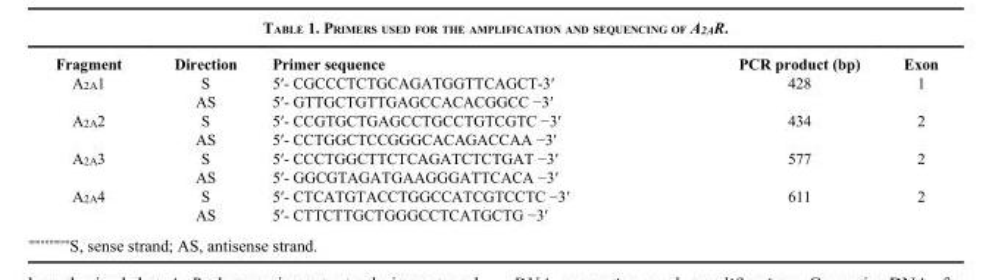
<table><thead><tr><td>Fragment</td><td>Direction</td><td>Primer sequence</td><td>PCR product (bp)</td><td>Exon</td></tr></thead><tbody><tr><td rowspan="2">A<sub>2A</sub>1</td><td>S</td><td>5′- CGCCCTCTGCAGATGGTTCAGCT-3′</td><td>428</td><td>1</td></tr><tr><td>AS</td><td>5′- GTTGCTGTTGAGCCACACGGCC −3′</td><td></td><td></td></tr><tr><td rowspan="2">A<sub>2A</sub>2</td><td>S</td><td>5′- CCGTGCTGAGCCTGCCTGTCGTC −3′</td><td>434</td><td>2</td></tr><tr><td>AS</td><td>5′- CCTGGCTCCGGGCACAGACCAA −3′</td><td></td><td></td></tr><tr><td rowspan="2">A<sub>2A</sub>3</td><td>S</td><td>5′- CCCTGGCTTCTCAGATCTCTGAT −3′</td><td>577</td><td>2</td></tr><tr><td>AS</td><td>5′- GGCGTAGATGAAGGGATTCACA −3′</td><td></td><td></td></tr><tr><td rowspan="2">A<sub>2A</sub>4</td><td>S</td><td>5′- CTCATGTACCTGGCCATCGTCCTC −3′</td><td>611</td><td>2</td></tr><tr><td>AS</td><td>5′- CTTCTTGCTGGGCCTCATGCTG −3′</td><td></td><td></td></tr></tbody></table>